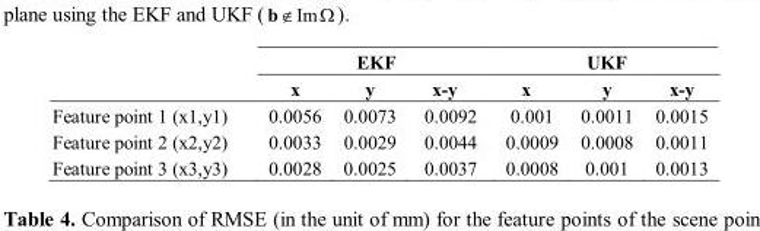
<table><thead><tr><td rowspan="2"></td><td colspan="3">EKF</td><td colspan="3">UKF</td></tr><tr><td>x</td><td>y</td><td>x-y</td><td>x</td><td>y</td><td>x-y</td></tr></thead><tbody><tr><td>Feature point 1 (x1,y1)</td><td>0.0056</td><td>0.0073</td><td>0.0092</td><td>0.001</td><td>0.0011</td><td>0.0015</td></tr><tr><td>Feature point 2 (x2,y2)</td><td>0.0033</td><td>0.0029</td><td>0.0044</td><td>0.0009</td><td>0.0008</td><td>0.0011</td></tr><tr><td>Feature point 3 (x3,y3)</td><td>0.0028</td><td>0.0025</td><td>0.0037</td><td>0.0008</td><td>0.001</td><td>0.0013</td></tr></tbody></table>